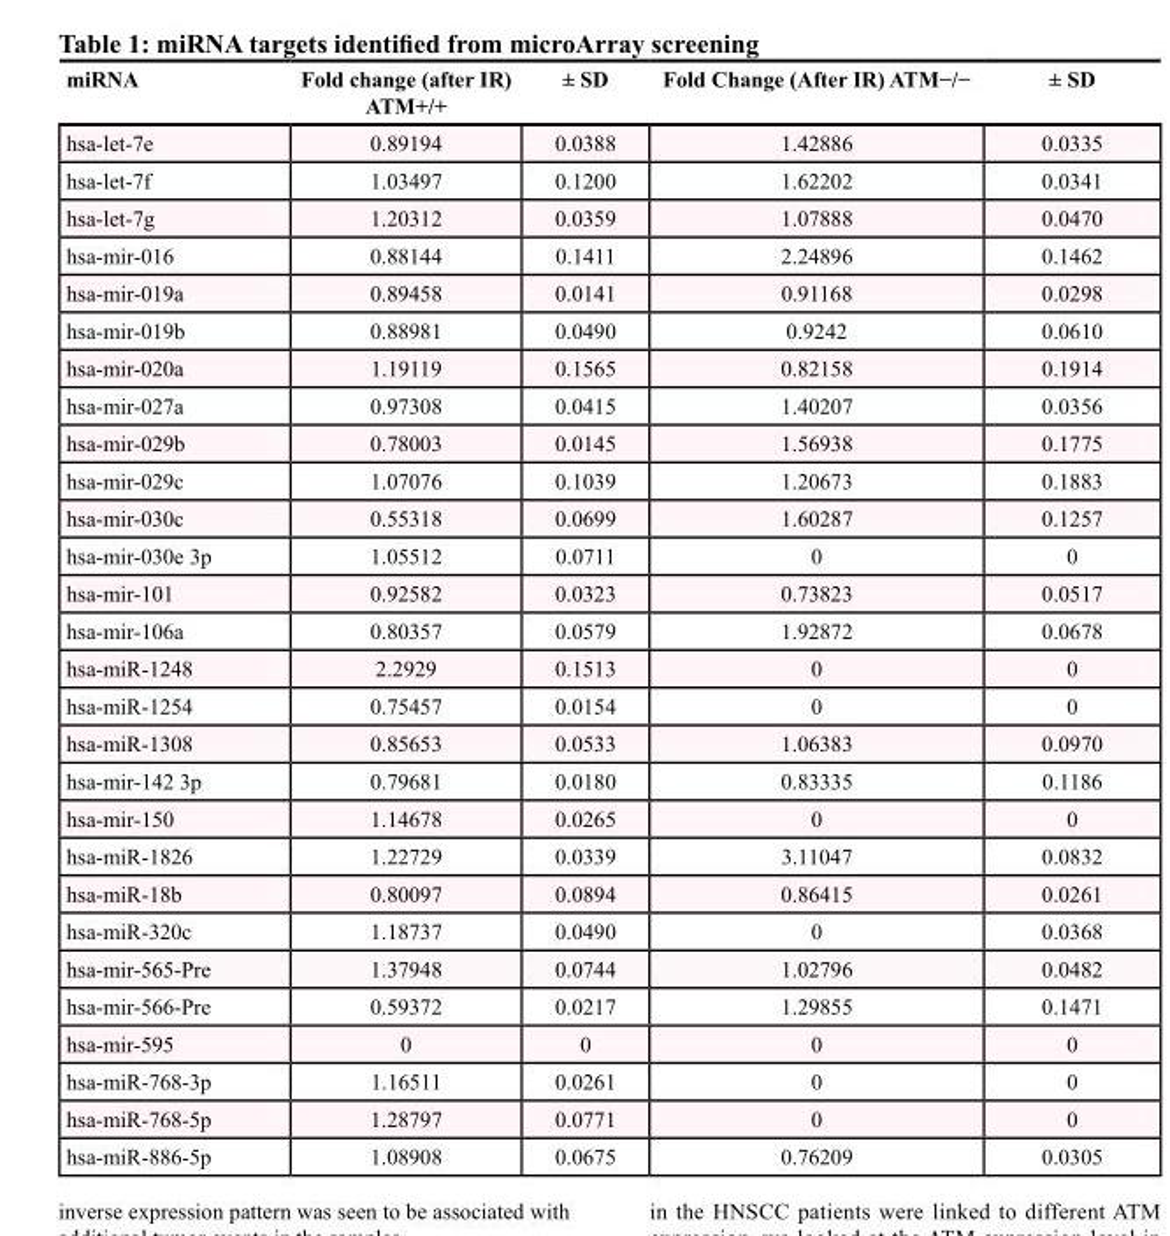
<table><thead><tr><td>miRNA</td><td>Fold change (after IR) ATM+/+</td><td>± SD</td><td>Fold Change (After IR) ATM−/−</td><td>± SD</td></tr></thead><tbody><tr><td>hsa-let-7e</td><td>0.89194</td><td>0.0388</td><td>1.42886</td><td>0.0335</td></tr><tr><td>hsa-let-7f</td><td>1.03497</td><td>0.1200</td><td>1.62202</td><td>0.0341</td></tr><tr><td>hsa-let-7g</td><td>1.20312</td><td>0.0359</td><td>1.07888</td><td>0.0470</td></tr><tr><td>hsa-mir-016</td><td>0.88144</td><td>0.1411</td><td>2.24896</td><td>0.1462</td></tr><tr><td>hsa-mir-019a</td><td>0.89458</td><td>0.0141</td><td>0.91168</td><td>0.0298</td></tr><tr><td>hsa-mir-019b</td><td>0.88981</td><td>0.0490</td><td>0.9242</td><td>0.0610</td></tr><tr><td>hsa-mir-020a</td><td>1.19119</td><td>0.1565</td><td>0.82158</td><td>0.1914</td></tr><tr><td>hsa-mir-027a</td><td>0.97308</td><td>0.0415</td><td>1.40207</td><td>0.0356</td></tr><tr><td>hsa-mir-029b</td><td>0.78003</td><td>0.0145</td><td>1.56938</td><td>0.1775</td></tr><tr><td>hsa-mir-029c</td><td>1.07076</td><td>0.1039</td><td>1.20673</td><td>0.1883</td></tr><tr><td>hsa-mir-030c</td><td>0.55318</td><td>0.0699</td><td>1.60287</td><td>0.1257</td></tr><tr><td>hsa-mir-030e 3p</td><td>1.05512</td><td>0.0711</td><td>0</td><td>0</td></tr><tr><td>hsa-mir-101</td><td>0.92582</td><td>0.0323</td><td>0.73823</td><td>0.0517</td></tr><tr><td>hsa-mir-106a</td><td>0.80357</td><td>0.0579</td><td>1.92872</td><td>0.0678</td></tr><tr><td>hsa-miR-1248</td><td>2.2929</td><td>0.1513</td><td>0</td><td>0</td></tr><tr><td>hsa-miR-1254</td><td>0.75457</td><td>0.0154</td><td>0</td><td>0</td></tr><tr><td>hsa-miR-1308</td><td>0.85653</td><td>0.0533</td><td>1.06383</td><td>0.0970</td></tr><tr><td>hsa-mir-142 3p</td><td>0.79681</td><td>0.0180</td><td>0.83335</td><td>0.1186</td></tr><tr><td>hsa-mir-150</td><td>1.14678</td><td>0.0265</td><td>0</td><td>0</td></tr><tr><td>hsa-miR-1826</td><td>1.22729</td><td>0.0339</td><td>3.11047</td><td>0.0832</td></tr><tr><td>hsa-miR-18b</td><td>0.80097</td><td>0.0894</td><td>0.86415</td><td>0.0261</td></tr><tr><td>hsa-miR-320c</td><td>1.18737</td><td>0.0490</td><td>0</td><td>0.0368</td></tr><tr><td>hsa-mir-565-Pre</td><td>1.37948</td><td>0.0744</td><td>1.02796</td><td>0.0482</td></tr><tr><td>hsa-mir-566-Pre</td><td>0.59372</td><td>0.0217</td><td>1.29855</td><td>0.1471</td></tr><tr><td>hsa-mir-595</td><td>0</td><td>0</td><td>0</td><td>0</td></tr><tr><td>hsa-miR-768-3p</td><td>1.16511</td><td>0.0261</td><td>0</td><td>0</td></tr><tr><td>hsa-miR-768-5p</td><td>1.28797</td><td>0.0771</td><td>0</td><td>0</td></tr><tr><td>hsa-miR-886-5p</td><td>1.08908</td><td>0.0675</td><td>0.76209</td><td>0.0305</td></tr></tbody></table>